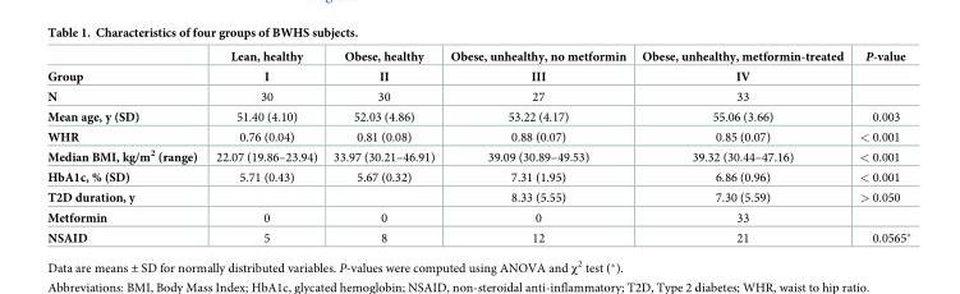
<table><thead><tr><td rowspan="2">Group</td><td rowspan="2">Lean, healthy I</td><td rowspan="2">Obese, healthy II</td><td rowspan="2">Obese, unhealthy, no metformin III</td><td rowspan="2">Obese, unhealthy, metformin-treated IV</td><td rowspan="2">P-value</td></tr><tr></tr></thead><tbody><tr><td>N</td><td>30</td><td>30</td><td>27</td><td>33</td><td></td></tr><tr><td>Mean age, y (SD)</td><td>51.40 (4.10)</td><td>52.03 (4.86)</td><td>53.22 (4.17)</td><td>55.06 (3.66)</td><td>0.003</td></tr><tr><td>WHR</td><td>0.76 (0.04)</td><td>0.81 (0.08)</td><td>0.88 (0.07)</td><td>0.85 (0.07)</td><td>&lt; 0.001</td></tr><tr><td>Median BMI, kg/m<sup>2</sup> (range)</td><td>22.07 (19.86–23.94)</td><td>33.97 (30.21–46.91)</td><td>39.09 (30.89–49.53)</td><td>39.32 (30.44–47.16)</td><td>&lt; 0.001</td></tr><tr><td>HbA1c, % (SD)</td><td>5.71 (0.43)</td><td>5.67 (0.32)</td><td>7.31 (1.95)</td><td>6.86 (0.96)</td><td>&lt; 0.001</td></tr><tr><td>T2D duration, y</td><td></td><td></td><td>8.33 (5.55)</td><td>7.30 (5.59)</td><td>&gt; 0.050</td></tr><tr><td>Metformin</td><td>0</td><td>0</td><td>0</td><td>33</td><td></td></tr><tr><td>NSAID</td><td>5</td><td>8</td><td>12</td><td>21</td><td>0.0565*</td></tr></tbody></table>